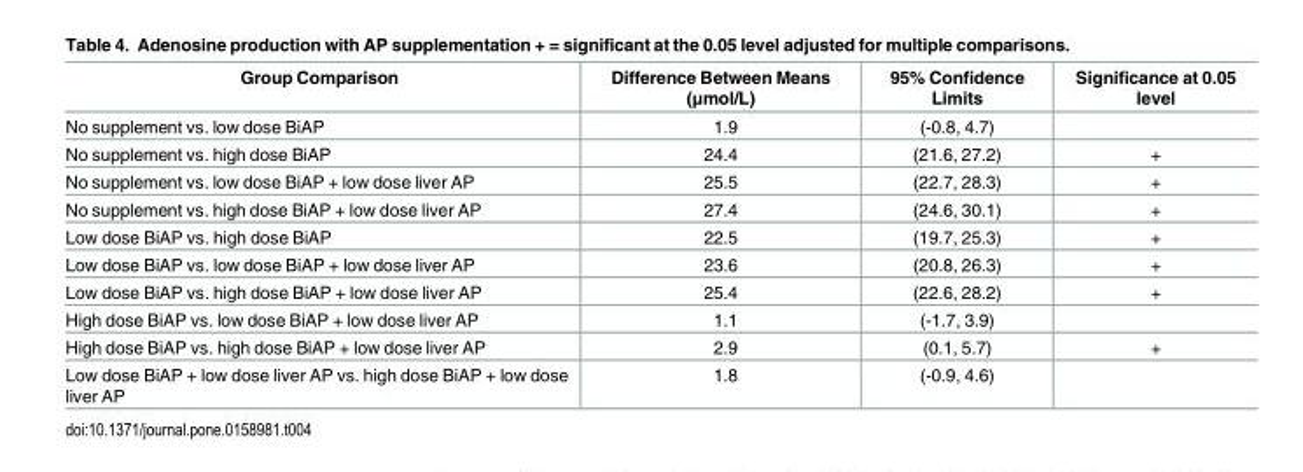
<table><thead><tr><td>Group Comparison</td><td>Difference Between Means (μmol/L)</td><td>95% Confidence Limits</td><td>Significance at 0.05 level</td></tr></thead><tbody><tr><td>No supplement vs. low dose BiAP</td><td>1.9</td><td>(-0.8, 4.7)</td><td></td></tr><tr><td>No supplement vs. high dose BiAP</td><td>24.4</td><td>(21.6, 27.2)</td><td>+</td></tr><tr><td>No supplement vs. low dose BiAP + low dose liver AP</td><td>25.5</td><td>(22.7, 28.3)</td><td>+</td></tr><tr><td>No supplement vs. high dose BiAP + low dose liver AP</td><td>27.4</td><td>(24.6, 30.1)</td><td>+</td></tr><tr><td>Low dose BiAP vs. high dose BiAP</td><td>22.5</td><td>(19.7, 25.3)</td><td>+</td></tr><tr><td>Low dose BiAP vs. low dose BiAP + low dose liver AP</td><td>23.6</td><td>(20.8, 26.3)</td><td>+</td></tr><tr><td>Low dose BiAP vs. high dose BiAP + low dose liver AP</td><td>25.4</td><td>(22.6, 28.2)</td><td>+</td></tr><tr><td>High dose BiAP vs. low dose BiAP + low dose liver AP</td><td>1.1</td><td>(-1.7, 3.9)</td><td></td></tr><tr><td>High dose BiAP vs. high dose BiAP + low dose liver AP</td><td>2.9</td><td>(0.1, 5.7)</td><td>+</td></tr><tr><td>Low dose BiAP + low dose liver AP vs. high dose BiAP + low dose liver AP</td><td>1.8</td><td>(-0.9, 4.6)</td><td></td></tr></tbody></table>